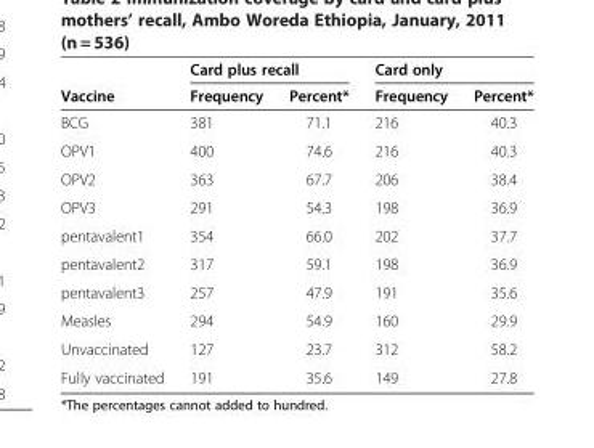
<table><thead><tr><td rowspan="2">Vaccine</td><td colspan="2">Card plus recall</td><td colspan="2">Card only</td></tr><tr><td>Frequency</td><td>Percent*</td><td>Frequency</td><td>Percent*</td></tr></thead><tbody><tr><td>BCG</td><td>381</td><td>71.1</td><td>216</td><td>40.3</td></tr><tr><td>OPV1</td><td>400</td><td>74.6</td><td>216</td><td>40.3</td></tr><tr><td>OPV2</td><td>363</td><td>67.7</td><td>206</td><td>38.4</td></tr><tr><td>OPV3</td><td>291</td><td>54.3</td><td>198</td><td>36.9</td></tr><tr><td>pentavalent1</td><td>354</td><td>66.0</td><td>202</td><td>37.7</td></tr><tr><td>pentavalent2</td><td>317</td><td>59.1</td><td>198</td><td>36.9</td></tr><tr><td>pentavalent3</td><td>257</td><td>47.9</td><td>191</td><td>35.6</td></tr><tr><td>Measles</td><td>294</td><td>54.9</td><td>160</td><td>29.9</td></tr><tr><td>Unvaccinated</td><td>127</td><td>23.7</td><td>312</td><td>58.2</td></tr><tr><td>Fully vaccinated</td><td>191</td><td>35.6</td><td>149</td><td>27.8</td></tr></tbody></table>